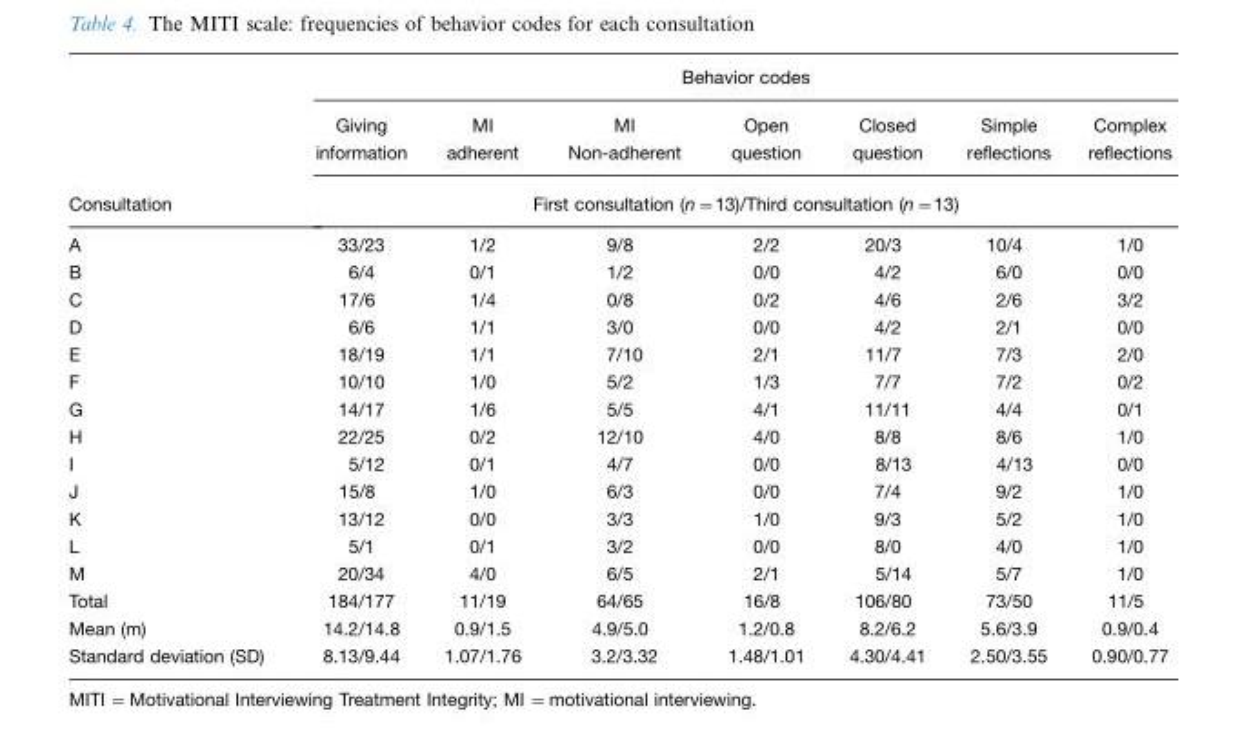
<table><thead><tr><td rowspan="3">Consultation</td><td colspan="7">Behavior codes</td></tr><tr><td>Giving information</td><td>MI adherent</td><td>MI Non-adherent</td><td>Open question</td><td>Closed question</td><td>Simple reflections</td><td>Complex reflections</td></tr><tr><td colspan="7">First consultation (n=13)/Third consultation (n=13)</td></tr></thead><tbody><tr><td>A</td><td>33/23</td><td>1/2</td><td>9/8</td><td>2/2</td><td>20/3</td><td>10/4</td><td>1/0</td></tr><tr><td>B</td><td>6/4</td><td>0/1</td><td>1/2</td><td>0/0</td><td>4/2</td><td>6/0</td><td>0/0</td></tr><tr><td>C</td><td>17/6</td><td>1/4</td><td>0/8</td><td>0/2</td><td>4/6</td><td>2/6</td><td>3/2</td></tr><tr><td>D</td><td>6/6</td><td>1/1</td><td>3/0</td><td>0/0</td><td>4/2</td><td>2/1</td><td>0/0</td></tr><tr><td>E</td><td>18/19</td><td>1/1</td><td>7/10</td><td>2/1</td><td>11/7</td><td>7/3</td><td>2/0</td></tr><tr><td>F</td><td>10/10</td><td>1/0</td><td>5/2</td><td>1/3</td><td>7/7</td><td>7/2</td><td>0/2</td></tr><tr><td>G</td><td>14/17</td><td>1/6</td><td>5/5</td><td>4/1</td><td>11/11</td><td>4/4</td><td>0/1</td></tr><tr><td>H</td><td>22/25</td><td>0/2</td><td>12/10</td><td>4/0</td><td>8/8</td><td>8/6</td><td>1/0</td></tr><tr><td>I</td><td>5/12</td><td>0/1</td><td>4/7</td><td>0/0</td><td>8/13</td><td>4/13</td><td>0/0</td></tr><tr><td>J</td><td>15/8</td><td>1/0</td><td>6/3</td><td>0/0</td><td>7/4</td><td>9/2</td><td>1/0</td></tr><tr><td>K</td><td>13/12</td><td>0/0</td><td>3/3</td><td>1/0</td><td>9/3</td><td>5/2</td><td>1/0</td></tr><tr><td>L</td><td>5/1</td><td>0/1</td><td>3/2</td><td>0/0</td><td>8/0</td><td>4/0</td><td>1/0</td></tr><tr><td>M</td><td>20/34</td><td>4/0</td><td>6/5</td><td>2/1</td><td>5/14</td><td>5/7</td><td>1/0</td></tr><tr><td>Total</td><td>184/177</td><td>11/19</td><td>64/65</td><td>16/8</td><td>106/80</td><td>73/50</td><td>11/5</td></tr><tr><td>Mean (m)</td><td>14.2/14.8</td><td>0.9/1.5</td><td>4.9/5.0</td><td>1.2/0.8</td><td>8.2/6.2</td><td>5.6/3.9</td><td>0.9/0.4</td></tr><tr><td>Standard deviation (SD)</td><td>8.13/9.44</td><td>1.07/1.76</td><td>3.2/3.32</td><td>1.48/1.01</td><td>4.30/4.41</td><td>2.50/3.55</td><td>0.90/0.77</td></tr></tbody></table>